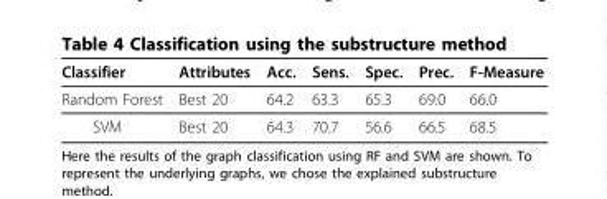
<table><thead><tr><td>Classifier</td><td>Attributes</td><td>Acc.</td><td>Sens.</td><td>Spec.</td><td>Prec.</td><td>F-Measure</td></tr></thead><tbody><tr><td>Random Forest</td><td>Best 20</td><td>64.2</td><td>63.3</td><td>65.3</td><td>69.0</td><td>66.0</td></tr><tr><td>SVM</td><td>Best 20</td><td>64.3</td><td>70.7</td><td>56.6</td><td>66.5</td><td>68.5</td></tr></tbody></table>